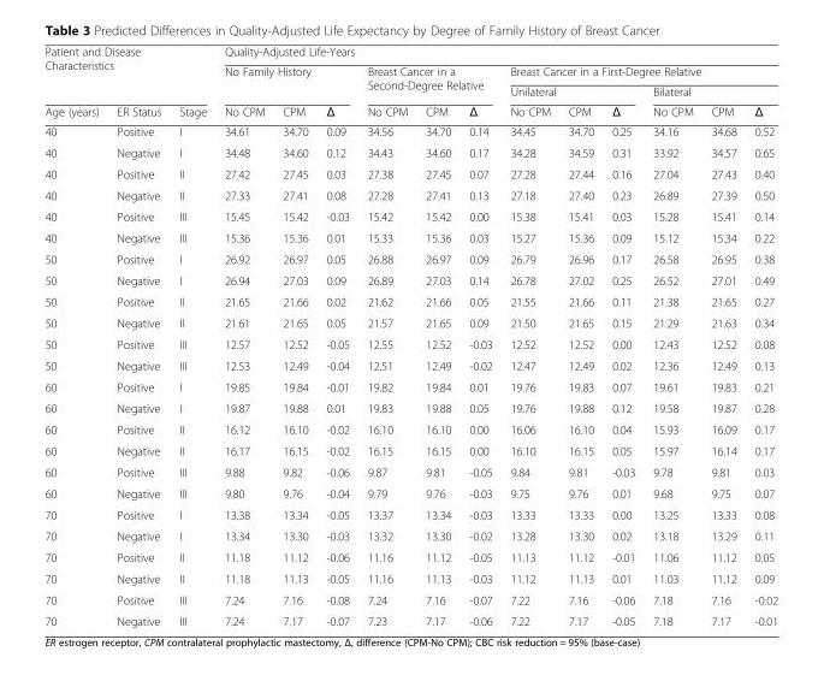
<table><thead><tr><td rowspan="3" colspan="3">Patient and Disease Characteristics</td><td colspan="12">Quality-Adjusted Life-Years</td></tr><tr><td rowspan="2" colspan="3">No Family History</td><td rowspan="2" colspan="3">Breast Cancer in a Second-Degree Relative</td><td colspan="6">Breast Cancer in a First-Degree Relative</td></tr><tr><td colspan="3">Unilateral</td><td colspan="3">Bilateral</td></tr><tr><td>Age (years)</td><td>ER Status</td><td>Stage</td><td>No CPM</td><td>CPM</td><td>Δ</td><td>No CPM</td><td>CPM</td><td>Δ</td><td>No CPM</td><td>CPM</td><td>Δ</td><td>No CPM</td><td>CPM</td><td>Δ</td></tr></thead><tbody><tr><td>40</td><td>Positive</td><td>I</td><td>34.61</td><td>34.70</td><td>0.09</td><td>34.56</td><td>34.70</td><td>0.14</td><td>34.45</td><td>34.70</td><td>0.25</td><td>34.16</td><td>34.68</td><td>0.52</td></tr><tr><td>40</td><td>Negative</td><td>I</td><td>34.48</td><td>34.60</td><td>0.12</td><td>34.43</td><td>34.60</td><td>0.17</td><td>34.28</td><td>34.59</td><td>0.31</td><td>33.92</td><td>34.57</td><td>0.65</td></tr><tr><td>40</td><td>Positive</td><td>II</td><td>27.42</td><td>27.45</td><td>0.03</td><td>27.38</td><td>27.45</td><td>0.07</td><td>27.28</td><td>27.44</td><td>0.16</td><td>27.04</td><td>27.43</td><td>0.40</td></tr><tr><td>40</td><td>Negative</td><td>II</td><td>27.33</td><td>27.41</td><td>0.08</td><td>27.28</td><td>27.41</td><td>0.13</td><td>27.18</td><td>27.40</td><td>0.23</td><td>26.89</td><td>27.39</td><td>0.50</td></tr><tr><td>40</td><td>Positive</td><td>III</td><td>15.45</td><td>15.42</td><td>-0.03</td><td>15.42</td><td>15.42</td><td>0.00</td><td>15.38</td><td>15.41</td><td>0.03</td><td>15.28</td><td>15.41</td><td>0.14</td></tr><tr><td>40</td><td>Negative</td><td>III</td><td>15.36</td><td>15.36</td><td>0.01</td><td>15.33</td><td>15.36</td><td>0.03</td><td>15.27</td><td>15.36</td><td>0.09</td><td>15.12</td><td>15.34</td><td>0.22</td></tr><tr><td>50</td><td>Positive</td><td>I</td><td>26.92</td><td>26.97</td><td>0.05</td><td>26.88</td><td>26.97</td><td>0.09</td><td>26.79</td><td>26.96</td><td>0.17</td><td>26.58</td><td>26.95</td><td>0.38</td></tr><tr><td>50</td><td>Negative</td><td>I</td><td>26.94</td><td>27.03</td><td>0.09</td><td>26.89</td><td>27.03</td><td>0.14</td><td>26.78</td><td>27.02</td><td>0.25</td><td>26.52</td><td>27.01</td><td>0.49</td></tr><tr><td>50</td><td>Positive</td><td>II</td><td>21.65</td><td>21.66</td><td>0.02</td><td>21.62</td><td>21.66</td><td>0.05</td><td>21.55</td><td>21.66</td><td>0.11</td><td>21.38</td><td>21.65</td><td>0.27</td></tr><tr><td>50</td><td>Negative</td><td>II</td><td>21.61</td><td>21.65</td><td>0.05</td><td>21.57</td><td>21.65</td><td>0.09</td><td>21.50</td><td>21.65</td><td>0.15</td><td>21.29</td><td>21.63</td><td>0.34</td></tr><tr><td>50</td><td>Positive</td><td>III</td><td>12.57</td><td>12.52</td><td>-0.05</td><td>12.55</td><td>12.52</td><td>-0.03</td><td>12.52</td><td>12.52</td><td>0.00</td><td>12.43</td><td>12.52</td><td>0.08</td></tr><tr><td>50</td><td>Negative</td><td>III</td><td>12.53</td><td>12.49</td><td>-0.04</td><td>12.51</td><td>12.49</td><td>-0.02</td><td>12.47</td><td>12.49</td><td>0.02</td><td>12.36</td><td>12.49</td><td>0.13</td></tr><tr><td>60</td><td>Positive</td><td>I</td><td>19.85</td><td>19.84</td><td>-0.01</td><td>19.82</td><td>19.84</td><td>0.01</td><td>19.76</td><td>19.83</td><td>0.07</td><td>19.61</td><td>19.83</td><td>0.21</td></tr><tr><td>60</td><td>Negative</td><td>I</td><td>19.87</td><td>19.88</td><td>0.01</td><td>19.83</td><td>19.88</td><td>0.05</td><td>19.76</td><td>19.88</td><td>0.12</td><td>19.58</td><td>19.87</td><td>0.28</td></tr><tr><td>60</td><td>Positive</td><td>II</td><td>16.12</td><td>16.10</td><td>-0.02</td><td>16.10</td><td>16.10</td><td>0.00</td><td>16.06</td><td>16.10</td><td>0.04</td><td>15.93</td><td>16.09</td><td>0.17</td></tr><tr><td>60</td><td>Negative</td><td>II</td><td>16.17</td><td>16.15</td><td>-0.02</td><td>16.15</td><td>16.15</td><td>0.00</td><td>16.10</td><td>16.15</td><td>0.05</td><td>15.97</td><td>16.14</td><td>0.17</td></tr><tr><td>60</td><td>Positive</td><td>III</td><td>9.88</td><td>9.82</td><td>-0.06</td><td>9.87</td><td>9.81</td><td>-0.05</td><td>9.84</td><td>9.81</td><td>-0.03</td><td>9.78</td><td>9.81</td><td>0.03</td></tr><tr><td>60</td><td>Negative</td><td>III</td><td>9.80</td><td>9.76</td><td>-0.04</td><td>9.79</td><td>9.76</td><td>-0.03</td><td>9.75</td><td>9.76</td><td>0.01</td><td>9.68</td><td>9.75</td><td>0.07</td></tr><tr><td>70</td><td>Positive</td><td>I</td><td>13.38</td><td>13.34</td><td>-0.05</td><td>13.37</td><td>13.34</td><td>-0.03</td><td>13.33</td><td>13.33</td><td>0.00</td><td>13.25</td><td>13.33</td><td>0.08</td></tr><tr><td>70</td><td>Negative</td><td>I</td><td>13.34</td><td>13.30</td><td>-0.03</td><td>13.32</td><td>13.30</td><td>-0.02</td><td>13.28</td><td>13.30</td><td>0.02</td><td>13.18</td><td>13.29</td><td>0.11</td></tr><tr><td>70</td><td>Positive</td><td>II</td><td>11.18</td><td>11.12</td><td>-0.06</td><td>11.16</td><td>11.12</td><td>-0.05</td><td>11.13</td><td>11.12</td><td>-0.01</td><td>11.06</td><td>11.12</td><td>0.05</td></tr><tr><td>70</td><td>Negative</td><td>II</td><td>11.18</td><td>11.13</td><td>-0.05</td><td>11.16</td><td>11.13</td><td>-0.03</td><td>11.12</td><td>11.13</td><td>0.01</td><td>11.03</td><td>11.12</td><td>0.09</td></tr><tr><td>70</td><td>Positive</td><td>III</td><td>7.24</td><td>7.16</td><td>-0.08</td><td>7.24</td><td>7.16</td><td>-0.07</td><td>7.22</td><td>7.16</td><td>-0.06</td><td>7.18</td><td>7.16</td><td>-0.02</td></tr><tr><td>70</td><td>Negative</td><td>III</td><td>7.24</td><td>7.17</td><td>-0.07</td><td>7.23</td><td>7.17</td><td>-0.06</td><td>7.22</td><td>7.17</td><td>-0.05</td><td>7.18</td><td>7.17</td><td>-0.01</td></tr></tbody></table>